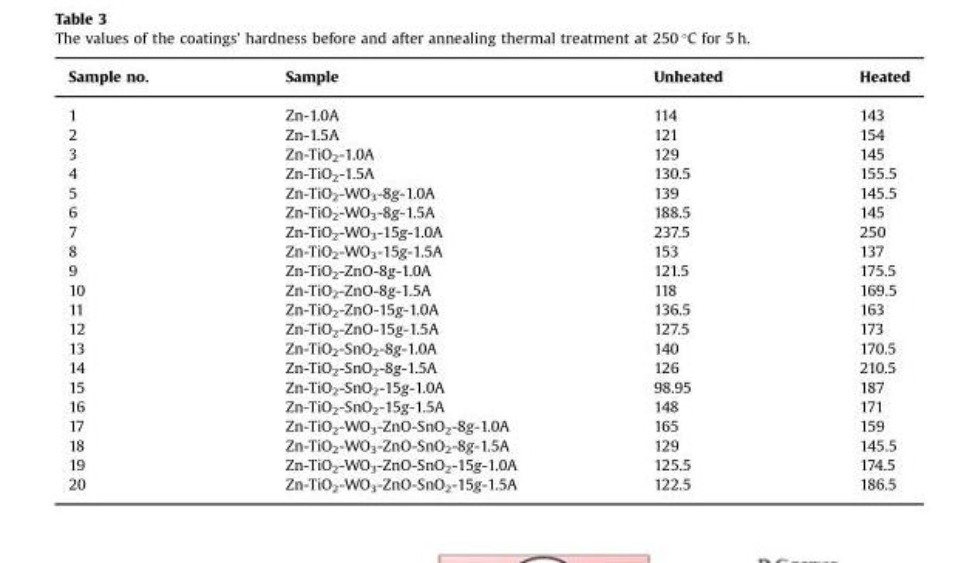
<table><thead><tr><td>Sample no.</td><td>Sample</td><td>Unheated</td><td>Heated</td></tr></thead><tbody><tr><td>1</td><td>Zn-1.0A</td><td>114</td><td>143</td></tr><tr><td>2</td><td>Zn-1.5A</td><td>121</td><td>154</td></tr><tr><td>3</td><td>Zn-TiO<sub>2</sub>-1.0A</td><td>129</td><td>145</td></tr><tr><td>4</td><td>Zn-TiO<sub>2</sub>-1.5A</td><td>130.5</td><td>155.5</td></tr><tr><td>5</td><td>Zn-TiO<sub>2</sub>-WO<sub>3</sub>-8g-1.0A</td><td>139</td><td>145.5</td></tr><tr><td>6</td><td>Zn-TiO<sub>2</sub>-WO<sub>3</sub>-8g-1.5A</td><td>188.5</td><td>145</td></tr><tr><td>7</td><td>Zn-TiO<sub>2</sub>-WO<sub>3</sub>-15g-1.0A</td><td>237.5</td><td>250</td></tr><tr><td>8</td><td>Zn-TiO<sub>2</sub>-WO<sub>3</sub>-15g-1.5A</td><td>153</td><td>137</td></tr><tr><td>9</td><td>Zn-TiO<sub>2</sub>-ZnO-8g-1.0A</td><td>121.5</td><td>175.5</td></tr><tr><td>10</td><td>Zn-TiO<sub>2</sub>-ZnO-8g-1.5A</td><td>118</td><td>169.5</td></tr><tr><td>11</td><td>Zn-TiO<sub>2</sub>-ZnO-15g-1.0A</td><td>136.5</td><td>163</td></tr><tr><td>12</td><td>Zn-TiO<sub>2</sub>-ZnO-15g-1.5A</td><td>127.5</td><td>173</td></tr><tr><td>13</td><td>Zn-TiO<sub>2</sub>-SnO<sub>2</sub>-8g-1.0A</td><td>140</td><td>170.5</td></tr><tr><td>14</td><td>Zn-TiO<sub>2</sub>-SnO<sub>2</sub>-8g-1.5A</td><td>126</td><td>210.5</td></tr><tr><td>15</td><td>Zn-TiO<sub>2</sub>-SnO<sub>2</sub>-15g-1.0A</td><td>98.95</td><td>187</td></tr><tr><td>16</td><td>Zn-TiO<sub>2</sub>-SnO<sub>2</sub>-15g-1.5A</td><td>148</td><td>171</td></tr><tr><td>17</td><td>Zn-TiO<sub>2</sub>-WO<sub>3</sub>-ZnO-SnO<sub>2</sub>-8g-1.0A</td><td>165</td><td>159</td></tr><tr><td>18</td><td>Zn-TiO<sub>2</sub>-WO<sub>3</sub>-ZnO-SnO<sub>2</sub>-8g-1.5A</td><td>129</td><td>145.5</td></tr><tr><td>19</td><td>Zn-TiO<sub>2</sub>-WO<sub>3</sub>-ZnO-SnO<sub>2</sub>-15g-1.0A</td><td>125.5</td><td>174.5</td></tr><tr><td>20</td><td>Zn-TiO<sub>2</sub>-WO<sub>3</sub>-ZnO-SnO<sub>2</sub>-15g-1.5A</td><td>122.5</td><td>186.5</td></tr></tbody></table>